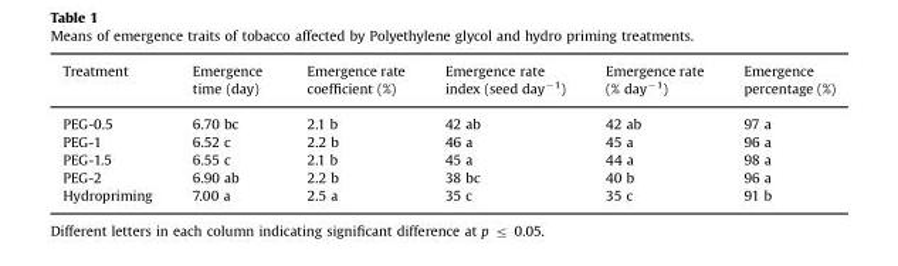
<table><thead><tr><td>Treatment</td><td>Emergence time (day)</td><td>Emergence rate coefficient (%)</td><td>Emergence rate index (seed day<sup>−1</sup>)</td><td>Emergence rate (% day<sup>−1</sup>)</td><td>Emergence percentage (%)</td></tr></thead><tbody><tr><td>PEG-0.5</td><td>6.70 bc</td><td>2.1 b</td><td>42 ab</td><td>42 ab</td><td>97 a</td></tr><tr><td>PEG-1</td><td>6.52 c</td><td>2.2 b</td><td>46 a</td><td>45 a</td><td>96 a</td></tr><tr><td>PEG-1.5</td><td>6.55 c</td><td>2.1 b</td><td>45 a</td><td>44 a</td><td>98 a</td></tr><tr><td>PEG-2</td><td>6.90 ab</td><td>2.2 b</td><td>38 bc</td><td>40 b</td><td>96 a</td></tr><tr><td>Hydropriming</td><td>7.00 a</td><td>2.5 a</td><td>35 c</td><td>35 c</td><td>91 b</td></tr></tbody></table>